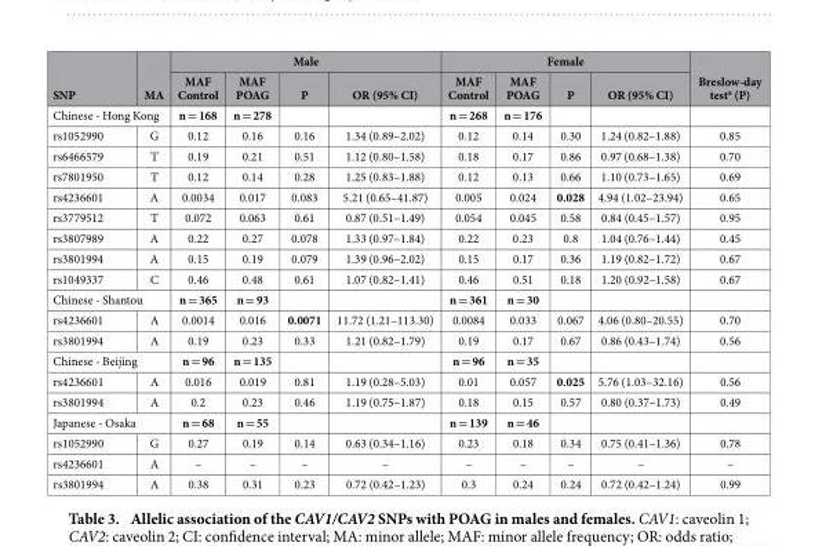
<table><thead><tr><td rowspan="2">SNP</td><td rowspan="2">MA</td><td colspan="4">Male</td><td colspan="4">Female</td><td rowspan="2">Breslow-day test<sup>a</sup> (P)</td></tr><tr><td>MAF Control</td><td>MAF POAG</td><td>P</td><td>OR (95% CI)</td><td>MAF Control</td><td>MAF POAG</td><td>P</td><td>OR (95% CI)</td></tr></thead><tbody><tr><td colspan="2">Chinese - Hong Kong</td><td>n = 168</td><td>n = 278</td><td></td><td></td><td>n = 268</td><td>n = 176</td><td></td><td></td><td></td></tr><tr><td>rs1052990</td><td>G</td><td>0.12</td><td>0.16</td><td>0.16</td><td>1.34 (0.89–2.02)</td><td>0.12</td><td>0.14</td><td>0.30</td><td>1.24 (0.82–1.88)</td><td>0.85</td></tr><tr><td>rs6466579</td><td>T</td><td>0.19</td><td>0.21</td><td>0.51</td><td>1.12 (0.80–1.58)</td><td>0.18</td><td>0.17</td><td>0.86</td><td>0.97 (0.68–1.38)</td><td>0.70</td></tr><tr><td>rs7801950</td><td>T</td><td>0.12</td><td>0.14</td><td>0.28</td><td>1.25 (0.83–1.88)</td><td>0.12</td><td>0.13</td><td>0.66</td><td>1.10 (0.73–1.65)</td><td>0.69</td></tr><tr><td>rs4236601</td><td>A</td><td>0.0034</td><td>0.017</td><td>0.083</td><td>5.21 (0.65–41.87)</td><td>0.005</td><td>0.024</td><td>0.028</td><td>4.94 (1.02–23.94)</td><td>0.65</td></tr><tr><td>rs3779512</td><td>T</td><td>0.072</td><td>0.063</td><td>0.61</td><td>0.87 (0.51–1.49)</td><td>0.054</td><td>0.045</td><td>0.58</td><td>0.84 (0.45–1.57)</td><td>0.95</td></tr><tr><td>rs3807989</td><td>A</td><td>0.22</td><td>0.27</td><td>0.078</td><td>1.33 (0.97–1.84)</td><td>0.22</td><td>0.23</td><td>0.8</td><td>1.04 (0.76–1.44)</td><td>0.45</td></tr><tr><td>rs3801994</td><td>A</td><td>0.15</td><td>0.19</td><td>0.079</td><td>1.39 (0.96–2.02)</td><td>0.15</td><td>0.17</td><td>0.36</td><td>1.19 (0.82–1.72)</td><td>0.67</td></tr><tr><td>rs1049337</td><td>C</td><td>0.46</td><td>0.48</td><td>0.61</td><td>1.07 (0.82–1.41)</td><td>0.46</td><td>0.51</td><td>0.18</td><td>1.20 (0.92–1.58)</td><td>0.67</td></tr><tr><td colspan="2">Chinese - Shantou</td><td>n = 365</td><td>n = 93</td><td></td><td></td><td>n = 361</td><td>n = 30</td><td></td><td></td><td></td></tr><tr><td>rs4236601</td><td>A</td><td>0.0014</td><td>0.016</td><td>0.0071</td><td>11.72 (1.21–113.30)</td><td>0.0084</td><td>0.033</td><td>0.067</td><td>4.06 (0.80–20.55)</td><td>0.70</td></tr><tr><td>rs3801994</td><td>A</td><td>0.19</td><td>0.23</td><td>0.33</td><td>1.21 (0.82–1.79)</td><td>0.19</td><td>0.17</td><td>0.67</td><td>0.86 (0.43–1.74)</td><td>0.56</td></tr><tr><td colspan="2">Chinese - Beijing</td><td>n = 96</td><td>n = 135</td><td></td><td></td><td>n = 96</td><td>n = 35</td><td></td><td></td><td></td></tr><tr><td>rs4236601</td><td>A</td><td>0.016</td><td>0.019</td><td>0.81</td><td>1.19 (0.28–5.03)</td><td>0.01</td><td>0.057</td><td>0.025</td><td>5.76 (1.03–32.16)</td><td>0.56</td></tr><tr><td>rs3801994</td><td>A</td><td>0.2</td><td>0.23</td><td>0.46</td><td>1.19 (0.75–1.87)</td><td>0.18</td><td>0.15</td><td>0.57</td><td>0.80 (0.37–1.73)</td><td>0.49</td></tr><tr><td colspan="2">Japanese - Osaka</td><td>n = 68</td><td>n = 55</td><td></td><td></td><td>n = 139</td><td>n = 46</td><td></td><td></td><td></td></tr><tr><td>rs1052990</td><td>G</td><td>0.27</td><td>0.19</td><td>0.14</td><td>0.63 (0.34–1.16)</td><td>0.23</td><td>0.18</td><td>0.34</td><td>0.75 (0.41–1.36)</td><td>0.78</td></tr><tr><td>rs4236601</td><td>A</td><td>–</td><td>–</td><td>–</td><td>–</td><td>–</td><td>–</td><td>–</td><td>–</td><td>–</td></tr><tr><td>rs3801994</td><td>A</td><td>0.38</td><td>0.31</td><td>0.23</td><td>0.72 (0.42–1.23)</td><td>0.3</td><td>0.24</td><td>0.24</td><td>0.72 (0.42–1.24)</td><td>0.99</td></tr></tbody></table>